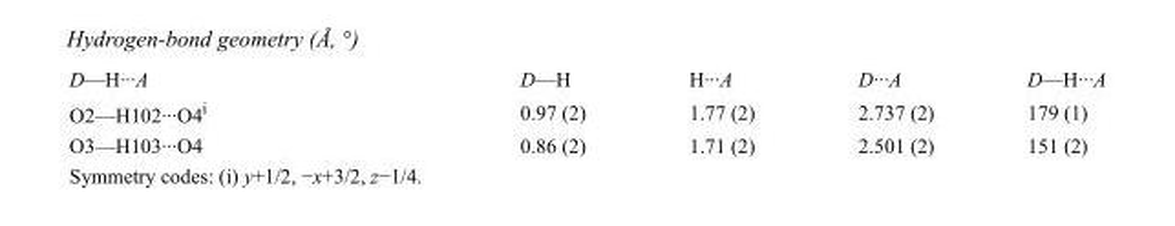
<table><tbody><tr><td>D—H···A</td><td>D—H</td><td>H···A</td><td>D···A</td><td>D—H···A</td></tr><tr><td>O2—H102···O4<sup>i</sup></td><td>0.97 (2)</td><td>1.77 (2)</td><td>2.737 (2)</td><td>179 (1)</td></tr><tr><td>O3—H103···O4</td><td>0.86 (2)</td><td>1.71 (2)</td><td>2.501 (2)</td><td>151 (2)</td></tr></tbody></table>